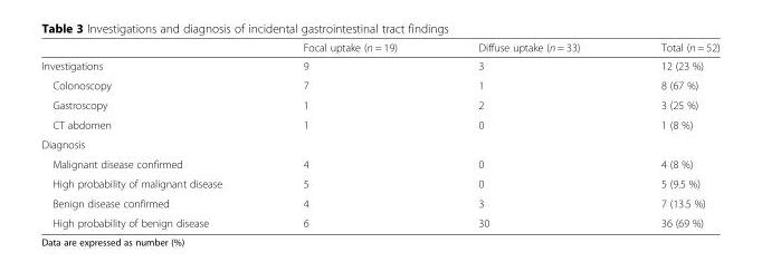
<table><thead><tr><td></td><td>Focal uptake (n = 19)</td><td>Diffuse uptake (n = 33)</td><td>Total (n = 52)</td></tr></thead><tbody><tr><td>Investigations</td><td>9</td><td>3</td><td>12 (23 %)</td></tr><tr><td>Colonoscopy</td><td>7</td><td>1</td><td>8 (67 %)</td></tr><tr><td>Gastroscopy</td><td>1</td><td>2</td><td>3 (25 %)</td></tr><tr><td>CT abdomen</td><td>1</td><td>0</td><td>1 (8 %)</td></tr><tr><td colspan="4">Diagnosis</td></tr><tr><td>Malignant disease confirmed</td><td>4</td><td>0</td><td>4 (8 %)</td></tr><tr><td>High probability of malignant disease</td><td>5</td><td>0</td><td>5 (9.5 %)</td></tr><tr><td>Benign disease confirmed</td><td>4</td><td>3</td><td>7 (13.5 %)</td></tr><tr><td>High probability of benign disease</td><td>6</td><td>30</td><td>36 (69 %)</td></tr></tbody></table>